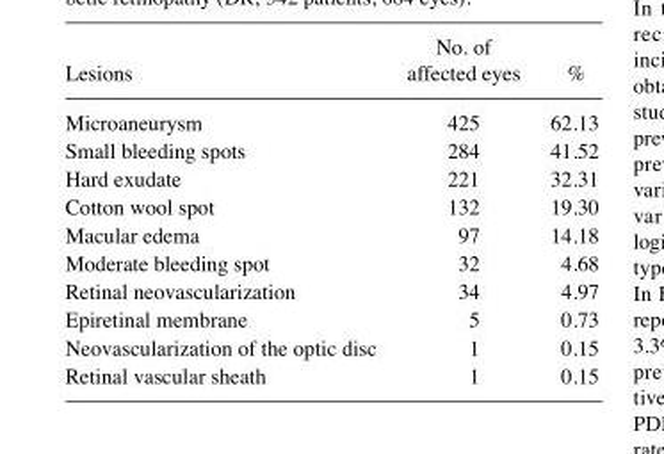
<table><thead><tr><td>Lesions</td><td>affected eyes</td><td>%</td></tr></thead><tbody><tr><td>Microaneurysm</td><td>425</td><td>62.13</td></tr><tr><td>Small bleeding spots</td><td>284</td><td>41.52</td></tr><tr><td>Hard exudate</td><td>221</td><td>32.31</td></tr><tr><td>Cotton wool spot</td><td>132</td><td>19.30</td></tr><tr><td>Macular edema</td><td>97</td><td>14.18</td></tr><tr><td>Moderate bleeding spot</td><td>32</td><td>4.68</td></tr><tr><td>Retinal neovascularization</td><td>34</td><td>4.97</td></tr><tr><td>Epiretinal membrane</td><td>5</td><td>0.73</td></tr><tr><td>Neovascularization of the optic disc</td><td>1</td><td>0.15</td></tr><tr><td>Retinal vascular sheath</td><td>1</td><td>0.15</td></tr></tbody></table>